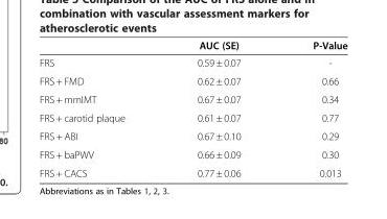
<table><thead><tr><td></td><td>AUC (SE)</td><td>P-Value</td></tr></thead><tbody><tr><td>FRS</td><td>0.59 ± 0.07</td><td>-</td></tr><tr><td>FRS + FMD</td><td>0.62 ± 0.07</td><td>0.66</td></tr><tr><td>FRS + mmIMT</td><td>0.67 ± 0.07</td><td>0.34</td></tr><tr><td>FRS + carotid plaque</td><td>0.61 ± 0.07</td><td>0.77</td></tr><tr><td>FRS + ABI</td><td>0.67 ± 0.10</td><td>0.29</td></tr><tr><td>FRS + baPWV</td><td>0.66 ± 0.09</td><td>0.30</td></tr><tr><td>FRS + CACS</td><td>0.77 ± 0.06</td><td>0.013</td></tr></tbody></table>